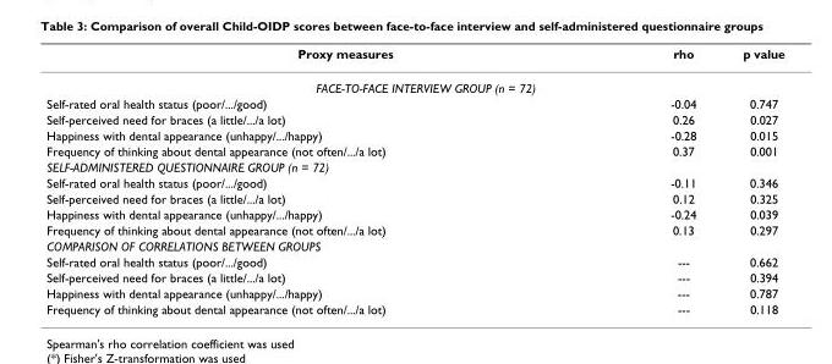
<table><thead><tr><td>Proxy measures</td><td>rho</td><td>p value</td></tr></thead><tbody><tr><td colspan="3">FACE-TO-FACE INTERVIEW GROUP (n = 72)</td></tr><tr><td>Self-rated oral health status (poor/.../good)</td><td>-0.04</td><td>0.747</td></tr><tr><td>Self-perceived need for braces (a little/.../a lot)</td><td>0.26</td><td>0.027</td></tr><tr><td>Happiness with dental appearance (unhappy/.../happy)</td><td>-0.28</td><td>0.015</td></tr><tr><td>Frequency of thinking about dental appearance (not often/.../a lot)</td><td>0.37</td><td>0.001</td></tr><tr><td colspan="3">SELF-ADMINISTERED QUESTIONNAIRE GROUP (n = 72)</td></tr><tr><td>Self-rated oral health status (poor/.../good)</td><td>-0.11</td><td>0.346</td></tr><tr><td>Self-perceived need for braces (a little/.../a lot)</td><td>0.12</td><td>0.325</td></tr><tr><td>Happiness with dental appearance (unhappy/.../happy)</td><td>-0.24</td><td>0.039</td></tr><tr><td>Frequency of thinking about dental appearance (not often/.../a lot)</td><td>0.13</td><td>0.297</td></tr><tr><td colspan="3">COMPARISON OF CORRELATIONS BETWEEN GROUPS</td></tr><tr><td>Self-rated oral health status (poor/.../good)</td><td>---</td><td>0.662</td></tr><tr><td>Self-perceived need for braces (a little/.../a lot)</td><td>---</td><td>0.394</td></tr><tr><td>Happiness with dental appearance (unhappy/.../happy)</td><td>---</td><td>0.787</td></tr><tr><td>Frequency of thinking about dental appearance (not often/.../a lot)</td><td>---</td><td>0.118</td></tr></tbody></table>